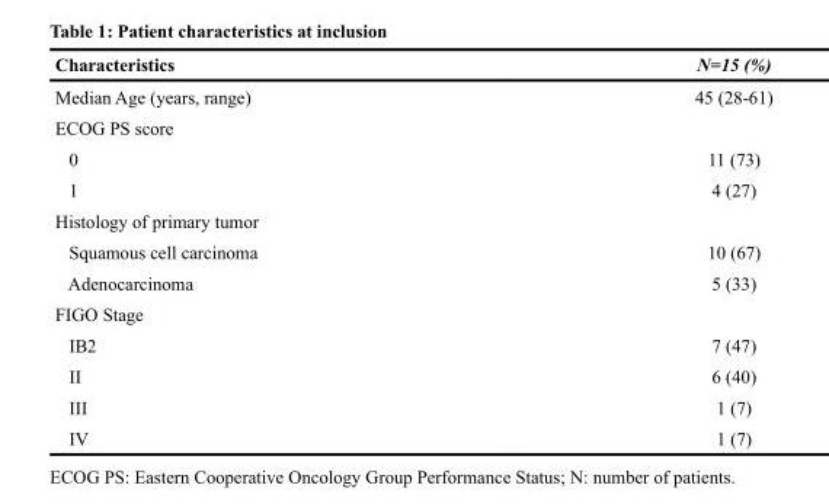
<table><thead><tr><td>Characteristics</td><td>N=15 (%)</td></tr></thead><tbody><tr><td>Median Age (years, range)</td><td>45 (28-61)</td></tr><tr><td colspan="2">ECOG PS score</td></tr><tr><td>0</td><td>11 (73)</td></tr><tr><td>1</td><td>4 (27)</td></tr><tr><td colspan="2">Histology of primary tumor</td></tr><tr><td>Squamous cell carcinoma</td><td>10 (67)</td></tr><tr><td>Adenocarcinoma</td><td>5 (33)</td></tr><tr><td colspan="2">FIGO Stage</td></tr><tr><td>IB2</td><td>7 (47)</td></tr><tr><td>II</td><td>6 (40)</td></tr><tr><td>III</td><td>1 (7)</td></tr><tr><td>IV</td><td>1 (7)</td></tr></tbody></table>